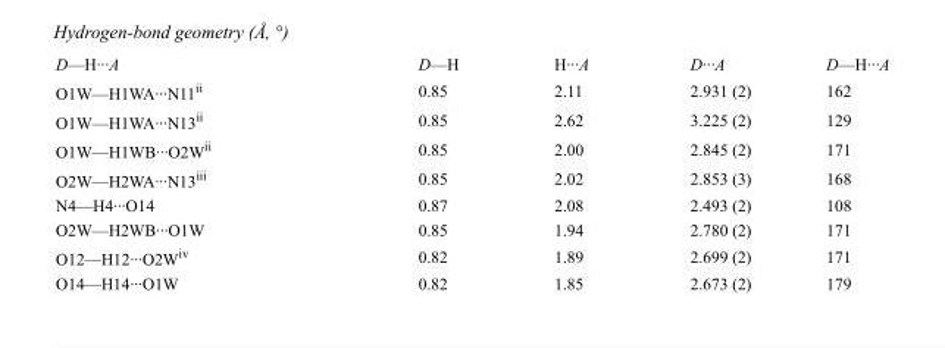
<table><tbody><tr><td>D—H···A</td><td>D—H</td><td>H···A</td><td>D···A</td><td>D—H···A</td></tr><tr><td>O1W—H1WA···N11<sup>ii</sup></td><td>0.85</td><td>2.11</td><td>2.931 (2)</td><td>162</td></tr><tr><td>O1W—H1WA···N13<sup>ii</sup></td><td>0.85</td><td>2.62</td><td>3.225 (2)</td><td>129</td></tr><tr><td>O1W—H1WB···O2W<sup>ii</sup></td><td>0.85</td><td>2.00</td><td>2.845 (2)</td><td>171</td></tr><tr><td>O2W—H2WA···N13<sup>iii</sup></td><td>0.85</td><td>2.02</td><td>2.853 (3)</td><td>168</td></tr><tr><td>N4—H4···O14</td><td>0.87</td><td>2.08</td><td>2.493 (2)</td><td>108</td></tr><tr><td>O2W—H2WB···O1W</td><td>0.85</td><td>1.94</td><td>2.780 (2)</td><td>171</td></tr><tr><td>O12—H12···O2W<sup>iv</sup></td><td>0.82</td><td>1.89</td><td>2.699 (2)</td><td>171</td></tr><tr><td>O14—H14···O1W</td><td>0.82</td><td>1.85</td><td>2.673 (2)</td><td>179</td></tr></tbody></table>